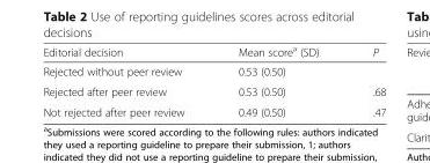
<table><thead><tr><td>Editorial decision</td><td>Mean score<sup>a</sup> (SD)</td><td>P</td></tr></thead><tbody><tr><td>Rejected without peer review</td><td>0.53 (0.50)</td><td></td></tr><tr><td>Rejected after peer review</td><td>0.53 (0.50)</td><td>.68</td></tr><tr><td>Not rejected after peer review</td><td>0.49 (0.50)</td><td>.47</td></tr></tbody></table>